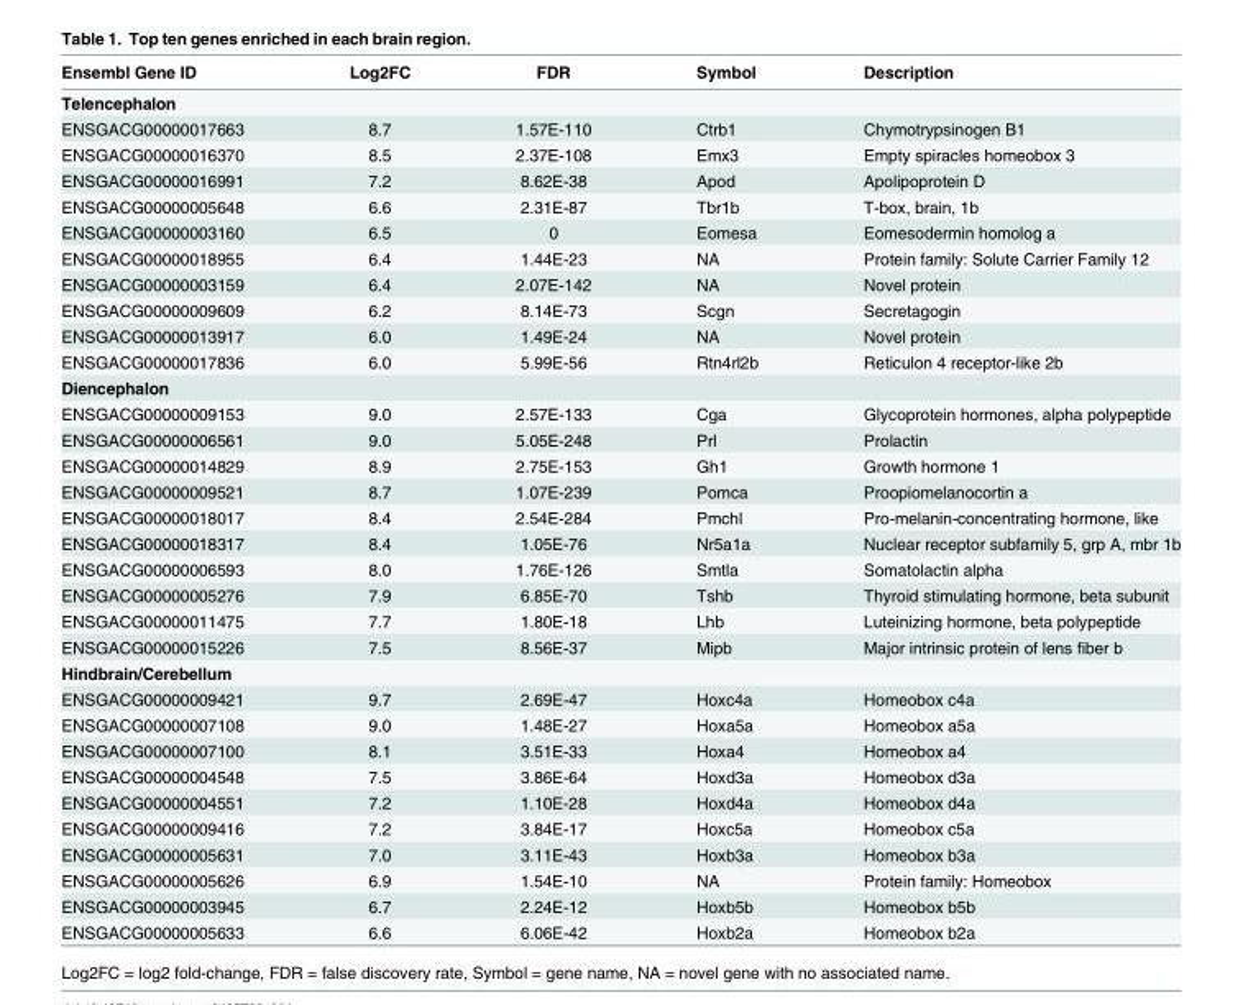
<table><thead><tr><td>Ensembl Gene ID</td><td>Log2FC</td><td>FDR</td><td>Symbol</td><td>Description</td></tr></thead><tbody><tr><td colspan="5">Telencephalon</td></tr><tr><td>ENSGACG00000017663</td><td>8.7</td><td>1.57E-110</td><td>Ctrb1</td><td>Chymotrypsinogen B1</td></tr><tr><td>ENSGACG00000016370</td><td>8.5</td><td>2.37E-108</td><td>Emx3</td><td>Empty spiracles homeobox 3</td></tr><tr><td>ENSGACG00000016991</td><td>7.2</td><td>8.62E-38</td><td>Apod</td><td>Apolipoprotein D</td></tr><tr><td>ENSGACG00000005648</td><td>6.6</td><td>2.31E-87</td><td>Tbr1b</td><td>T-box, brain, 1b</td></tr><tr><td>ENSGACG00000003160</td><td>6.5</td><td>0</td><td>Eomesa</td><td>Eomesodermin homolog a</td></tr><tr><td>ENSGACG00000018955</td><td>6.4</td><td>1.44E-23</td><td>NA</td><td>Protein family: Solute Carrier Family 12</td></tr><tr><td>ENSGACG00000003159</td><td>6.4</td><td>2.07E-142</td><td>NA</td><td>Novel protein</td></tr><tr><td>ENSGACG00000009609</td><td>6.2</td><td>8.14E-73</td><td>Scgn</td><td>Secretagogin</td></tr><tr><td>ENSGACG00000013917</td><td>6.0</td><td>1.49E-24</td><td>NA</td><td>Novel protein</td></tr><tr><td>ENSGACG00000017836</td><td>6.0</td><td>5.99E-56</td><td>Rtn4rl2b</td><td>Reticulon 4 receptor-like 2b</td></tr><tr><td colspan="5">Diencephalon</td></tr><tr><td>ENSGACG00000009153</td><td>9.0</td><td>2.57E-133</td><td>Cga</td><td>Glycoprotein hormones, alpha polypeptide</td></tr><tr><td>ENSGACG00000006561</td><td>9.0</td><td>5.05E-248</td><td>Prl</td><td>Prolactin</td></tr><tr><td>ENSGACG00000014829</td><td>8.9</td><td>2.75E-153</td><td>Gh1</td><td>Growth hormone 1</td></tr><tr><td>ENSGACG00000009521</td><td>8.7</td><td>1.07E-239</td><td>Pomca</td><td>Proopiomelanocortin a</td></tr><tr><td>ENSGACG00000018017</td><td>8.4</td><td>2.54E-284</td><td>Pmchl</td><td>Pro-melanin-concentrating hormone, like</td></tr><tr><td>ENSGACG00000018317</td><td>8.4</td><td>1.05E-76</td><td>Nr5a1a</td><td>Nuclear receptor subfamily 5, grp A, mbr 1b</td></tr><tr><td>ENSGACG00000006593</td><td>8.0</td><td>1.76E-126</td><td>Smtla</td><td>Somatolactin alpha</td></tr><tr><td>ENSGACG00000005276</td><td>7.9</td><td>6.85E-70</td><td>Tshb</td><td>Thyroid stimulating hormone, beta subunit</td></tr><tr><td>ENSGACG00000011475</td><td>7.7</td><td>1.80E-18</td><td>Lhb</td><td>Luteinizing hormone, beta polypeptide</td></tr><tr><td>ENSGACG00000015226</td><td>7.5</td><td>8.56E-37</td><td>Mipb</td><td>Major intrinsic protein of lens fiber b</td></tr><tr><td colspan="5">Hindbrain/Cerebellum</td></tr><tr><td>ENSGACG00000009421</td><td>9.7</td><td>2.69E-47</td><td>Hoxc4a</td><td>Homeobox c4a</td></tr><tr><td>ENSGACG00000007108</td><td>9.0</td><td>1.48E-27</td><td>Hoxa5a</td><td>Homeobox a5a</td></tr><tr><td>ENSGACG00000007100</td><td>8.1</td><td>3.51E-33</td><td>Hoxa4</td><td>Homeobox a4</td></tr><tr><td>ENSGACG00000004548</td><td>7.5</td><td>3.86E-64</td><td>Hoxd3a</td><td>Homeobox d3a</td></tr><tr><td>ENSGACG00000004551</td><td>7.2</td><td>1.10E-28</td><td>Hoxd4a</td><td>Homeobox d4a</td></tr><tr><td>ENSGACG00000009416</td><td>7.2</td><td>3.84E-17</td><td>Hoxc5a</td><td>Homeobox c5a</td></tr><tr><td>ENSGACG00000005631</td><td>7.0</td><td>3.11E-43</td><td>Hoxb3a</td><td>Homeobox b3a</td></tr><tr><td>ENSGACG00000005626</td><td>6.9</td><td>1.54E-10</td><td>NA</td><td>Protein family: Homeobox</td></tr><tr><td>ENSGACG00000003945</td><td>6.7</td><td>2.24E-12</td><td>Hoxb5b</td><td>Homeobox b5b</td></tr><tr><td>ENSGACG00000005633</td><td>6.6</td><td>6.06E-42</td><td>Hoxb2a</td><td>Homeobox b2a</td></tr></tbody></table>